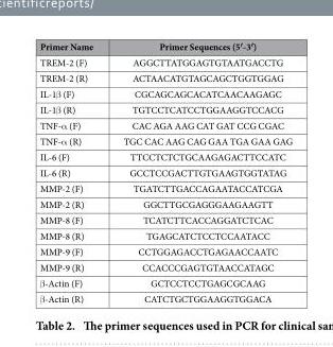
<table><thead><tr><td>Primer Name</td><td>Primer Sequences (5′-3′)</td></tr></thead><tbody><tr><td>TREM-2 (F)</td><td>AGGCTTATGGAGTGTAATGACCTG</td></tr><tr><td>TREM-2 (R)</td><td>ACTAACATGTAGCAGCTGGTGGAG</td></tr><tr><td>IL-1β (F)</td><td>CGCAGCAGCACATCAACAAGAGC</td></tr><tr><td>IL-1β (R)</td><td>TGTCCTCATCCTGGAAGGTCCACG</td></tr><tr><td>TNF-α (F)</td><td>CAC AGA AAG CAT GAT CCG CGAC</td></tr><tr><td>TNF-α (R)</td><td>TGC CAC AAG CAG GAA TGA GAA GAG</td></tr><tr><td>IL-6 (F)</td><td>TTCCTCTCTGCAAGAGACTTCCATC</td></tr><tr><td>IL-6 (R)</td><td>GCCTCCGACTTGTGAAGTGGTATAG</td></tr><tr><td>MMP-2 (F)</td><td>TGATCTTGACCAGAATACCATCGA</td></tr><tr><td>MMP-2 (R)</td><td>GGCTTGCGAGGGAAGAAGTT</td></tr><tr><td>MMP-8 (F)</td><td>TCATCTTCACCAGGATCTCAC</td></tr><tr><td>MMP-8 (R)</td><td>TGAGCATCTCCTCCAATACC</td></tr><tr><td>MMP-9 (F)</td><td>CCTGGAGACCTGAGAACCAATC</td></tr><tr><td>MMP-9 (R)</td><td>CCACCCGAGTGTAACCATAGC</td></tr><tr><td>β -Actin (F)</td><td>GCTCCTCCTGAGCGCAAG</td></tr><tr><td>β -Actin (R)</td><td>CATCTGCTGGAAGGTGGACA</td></tr></tbody></table>